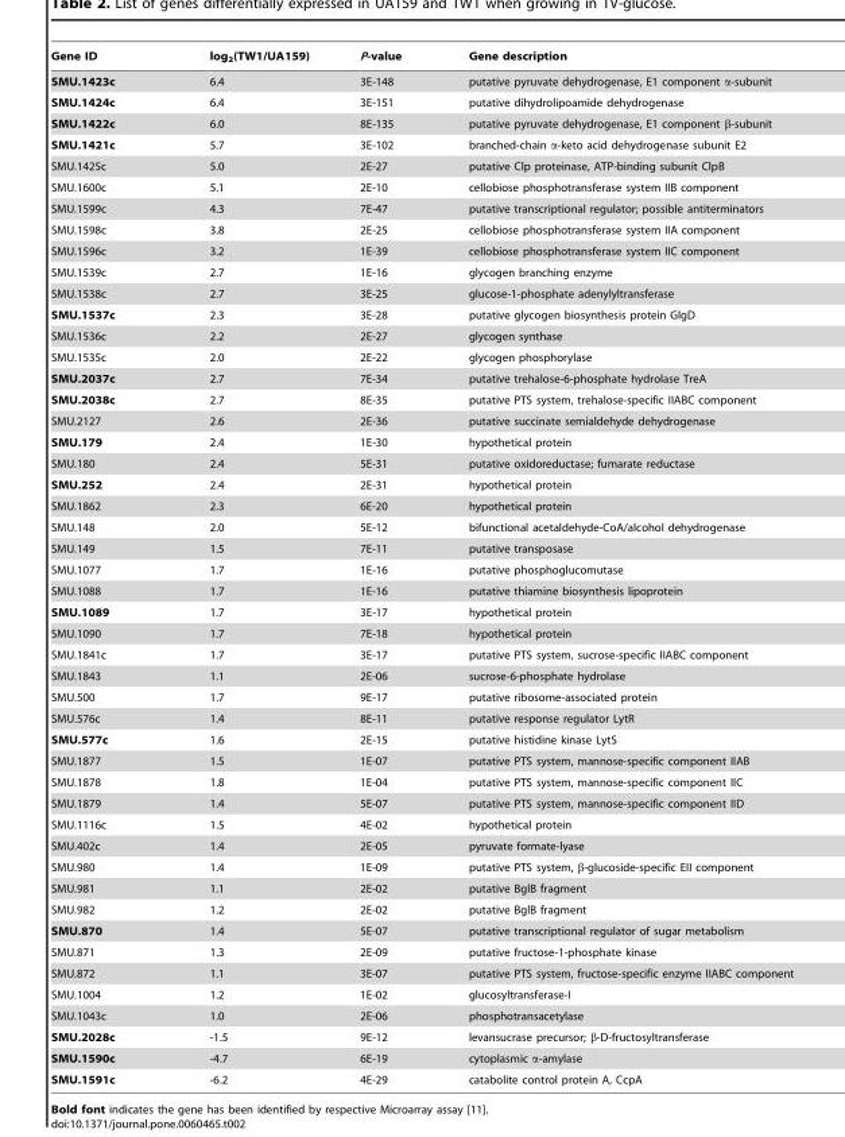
<table><thead><tr><td>Gene ID</td><td>log<sub>2</sub>(TW1/UA159)</td><td>P-value</td><td>Gene description</td></tr></thead><tbody><tr><td>SMU.1423c</td><td>6.4</td><td>3E-148</td><td>putative pyruvate dehydrogenase, E1 component α-subunit</td></tr><tr><td>SMU.1424c</td><td>6.4</td><td>3E-151</td><td>putative dihydrolipoamide dehydrogenase</td></tr><tr><td>SMU.1422c</td><td>6.0</td><td>8E-135</td><td>putative pyruvate dehydrogenase, E1 component β-subunit</td></tr><tr><td>SMU.1421c</td><td>5.7</td><td>3E-102</td><td>branched-chain α-keto acid dehydrogenase subunit E2</td></tr><tr><td>SMU.1425c</td><td>5.0</td><td>2E-27</td><td>putative Clp proteinase, ATP-binding subunit ClpB</td></tr><tr><td>SMU.1600c</td><td>5.1</td><td>2E-10</td><td>cellobiose phosphotransferase system IIB component</td></tr><tr><td>SMU.1599c</td><td>4.3</td><td>7E-47</td><td>putative transcriptional regulator; possible antiterminators</td></tr><tr><td>SMU.1598c</td><td>3.8</td><td>2E-25</td><td>cellobiose phosphotransferase system IIA component</td></tr><tr><td>SMU.1596c</td><td>3.2</td><td>1E-39</td><td>cellobiose phosphotransferase system IIC component</td></tr><tr><td>SMU.1539c</td><td>2.7</td><td>1E-16</td><td>glycogen branching enzyme</td></tr><tr><td>SMU.1538c</td><td>2.7</td><td>3E-25</td><td>glucose-1-phosphate adenylyltransferase</td></tr><tr><td>SMU.1537c</td><td>2.3</td><td>3E-28</td><td>putative glycogen biosynthesis protein GlgD</td></tr><tr><td>SMU.1536c</td><td>2.2</td><td>2E-27</td><td>glycogen synthase</td></tr><tr><td>SMU.1535c</td><td>2.0</td><td>2E-22</td><td>glycogen phosphorylase</td></tr><tr><td>SMU.2037c</td><td>2.7</td><td>7E-34</td><td>putative trehalose-6-phosphate hydrolase TreA</td></tr><tr><td>SMU.2038c</td><td>2.7</td><td>8E-35</td><td>putative PTS system, trehalose-specific IIABC component</td></tr><tr><td>SMU.2127</td><td>2.6</td><td>2E-36</td><td>putative succinate semialdehyde dehydrogenase</td></tr><tr><td>SMU.179</td><td>2.4</td><td>1E-30</td><td>hypothetical protein</td></tr><tr><td>SMU.180</td><td>2.4</td><td>5E-31</td><td>putative oxidoreductase; fumarate reductase</td></tr><tr><td>SMU.252</td><td>2.4</td><td>2E-31</td><td>hypothetical protein</td></tr><tr><td>SMU.1862</td><td>2.3</td><td>6E-20</td><td>hypothetical protein</td></tr><tr><td>SMU.148</td><td>2.0</td><td>5E-12</td><td>bifunctional acetaldehyde-CoA/alcohol dehydrogenase</td></tr><tr><td>SMU.149</td><td>1.5</td><td>7E-11</td><td>putative transposase</td></tr><tr><td>SMU.1077</td><td>1.7</td><td>1E-16</td><td>putative phosphoglucomutase</td></tr><tr><td>SMU.1088</td><td>1.7</td><td>1E-16</td><td>putative thiamine biosynthesis lipoprotein</td></tr><tr><td>SMU.1089</td><td>1.7</td><td>3E-17</td><td>hypothetical protein</td></tr><tr><td>SMU.1090</td><td>1.7</td><td>7E-18</td><td>hypothetical protein</td></tr><tr><td>SMU.1841c</td><td>1.7</td><td>3E-17</td><td>putative PTS system, sucrose-specific IIABC component</td></tr><tr><td>SMU.1843</td><td>1.1</td><td>2E-06</td><td>sucrose-6-phosphate hydrolase</td></tr><tr><td>SMU.500</td><td>1.7</td><td>9E-17</td><td>putative ribosome-associated protein</td></tr><tr><td>SMU.576c</td><td>1.4</td><td>8E-11</td><td>putative response regulator LytR</td></tr><tr><td>SMU.577c</td><td>1.6</td><td>2E-15</td><td>putative histidine kinase LytS</td></tr><tr><td>SMU.1877</td><td>1.5</td><td>1E-07</td><td>putative PTS system, mannose-specific component IIAB</td></tr><tr><td>SMU.1878</td><td>1.8</td><td>1E-04</td><td>putative PTS system, mannose-specific component IIC</td></tr><tr><td>SMU.1879</td><td>1.4</td><td>5E-07</td><td>putative PTS system, mannose-specific component IID</td></tr><tr><td>SMU.1116c</td><td>1.5</td><td>4E-02</td><td>hypothetical protein</td></tr><tr><td>SMU.402c</td><td>1.4</td><td>2E-05</td><td>pyruvate formate-lyase</td></tr><tr><td>SMU.980</td><td>1.4</td><td>1E-09</td><td>putative PTS system, β-glucoside-specific EII component</td></tr><tr><td>SMU.981</td><td>1.1</td><td>2E-02</td><td>putative BglB fragment</td></tr><tr><td>SMU.982</td><td>1.2</td><td>2E-02</td><td>putative BglB fragment</td></tr><tr><td>SMU.870</td><td>1.4</td><td>5E-07</td><td>putative transcriptional regulator of sugar metabolism</td></tr><tr><td>SMU.871</td><td>1.3</td><td>2E-09</td><td>putative fructose-1-phosphate kinase</td></tr><tr><td>SMU.872</td><td>1.1</td><td>3E-07</td><td>putative PTS system, fructose-specific enzyme IIABC component</td></tr><tr><td>SMU.1004</td><td>1.2</td><td>1E-02</td><td>glucosyltransferase-I</td></tr><tr><td>SMU.1043c</td><td>1.0</td><td>2E-06</td><td>phosphotransacetylase</td></tr><tr><td>SMU.2028c</td><td>-1.5</td><td>9E-12</td><td>levansucrase precursor; β-D-fructosyltransferase</td></tr><tr><td>SMU.1590c</td><td>-4.7</td><td>6E-19</td><td>cytoplasmic α-amylase</td></tr><tr><td>SMU.1591c</td><td>-6.2</td><td>4E-29</td><td>catabolite control protein A, CcpA</td></tr></tbody></table>